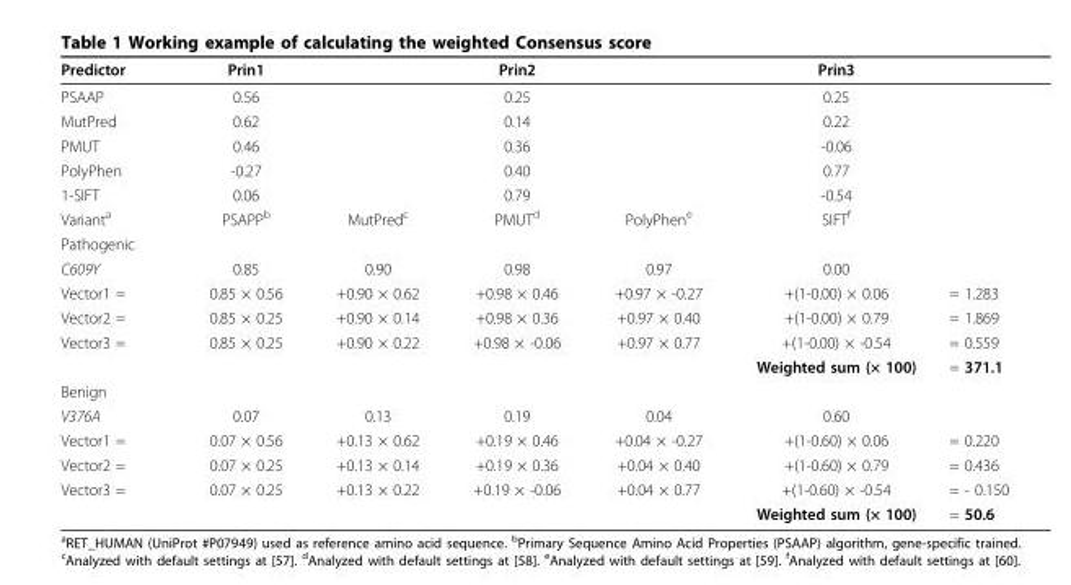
<table><thead><tr><td>Predictor</td><td>Prin1</td><td></td><td>Prin2</td><td></td><td>Prin3</td><td></td></tr></thead><tbody><tr><td>PSAAP</td><td>0.56</td><td></td><td>0.25</td><td></td><td>0.25</td><td></td></tr><tr><td>MutPred</td><td>0.62</td><td></td><td>0.14</td><td></td><td>0.22</td><td></td></tr><tr><td>PMUT</td><td>0.46</td><td></td><td>0.36</td><td></td><td>-0.06</td><td></td></tr><tr><td>PolyPhen</td><td>-0.27</td><td></td><td>0.40</td><td></td><td>0.77</td><td></td></tr><tr><td>1-SIFT</td><td>0.06</td><td></td><td>0.79</td><td></td><td>-0.54</td><td></td></tr><tr><td>Variant<sup>a</sup></td><td>PSAPP<sup>b</sup></td><td>MutPred<sup>c</sup></td><td>PMUT<sup>d</sup></td><td>PolyPhen<sup>e</sup></td><td>SIFT<sup>f</sup></td><td></td></tr><tr><td colspan="7">Pathogenic</td></tr><tr><td>C609Y</td><td>0.85</td><td>0.90</td><td>0.98</td><td>0.97</td><td>0.00</td><td></td></tr><tr><td>Vector1 =</td><td>0.85 × 0.56</td><td>+0.90 × 0.62</td><td>+0.98 × 0.46</td><td>+0.97 × -0.27</td><td>+(1-0.00) × 0.06</td><td>= 1.283</td></tr><tr><td>Vector2 =</td><td>0.85 × 0.25</td><td>+0.90 × 0.14</td><td>+0.98 × 0.36</td><td>+0.97 × 0.40</td><td>+(1-0.00) × 0.79</td><td>= 1.869</td></tr><tr><td rowspan="2">Vector3 =</td><td>0.85 × 0.25</td><td>+0.90 × 0.22</td><td>+0.98 × -0.06</td><td>+0.97 × 0.77</td><td>+(1-0.00) × -0.54</td><td>= 0.559</td></tr><tr><td></td><td></td><td></td><td></td><td>Weighted sum (× 100)</td><td>= 371.1</td></tr><tr><td colspan="7">Benign</td></tr><tr><td>V376A</td><td>0.07</td><td>0.13</td><td>0.19</td><td>0.04</td><td>0.60</td><td></td></tr><tr><td>Vector1 =</td><td>0.07 × 0.56</td><td>+0.13 × 0.62</td><td>+0.19 × 0.46</td><td>+0.04 × -0.27</td><td>+(1-0.60) × 0.06</td><td>= 0.220</td></tr><tr><td>Vector2 =</td><td>0.07 × 0.25</td><td>+0.13 × 0.14</td><td>+0.19 × 0.36</td><td>+0.04 × 0.40</td><td>+(1-0.60) × 0.79</td><td>= 0.436</td></tr><tr><td rowspan="2">Vector3 =</td><td>0.07 × 0.25</td><td>+0.13 × 0.22</td><td>+0.19 × -0.06</td><td>+0.04 × 0.77</td><td>+(1-0.60) × -0.54</td><td>= - 0.150</td></tr><tr><td></td><td></td><td></td><td></td><td>Weighted sum (× 100)</td><td>= 50.6</td></tr></tbody></table>